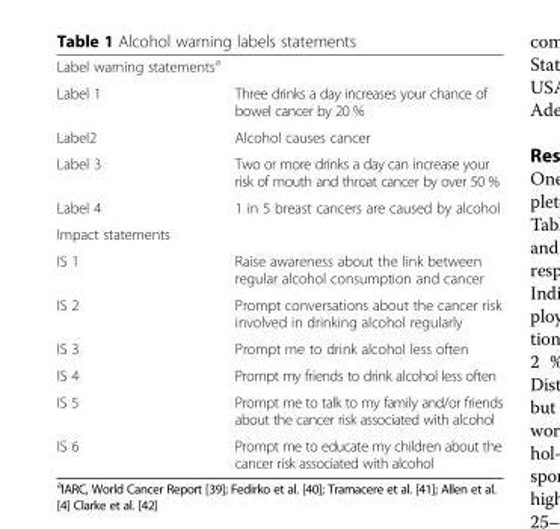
<table><tbody><tr><td colspan="2">Label warning statements<sup>a</sup></td></tr><tr><td>Label 1</td><td>Three drinks a day increases your chance of bowel cancer by 20 %</td></tr><tr><td>Label2</td><td>Alcohol causes cancer</td></tr><tr><td>Label 3</td><td>Two or more drinks a day can increase your risk of mouth and throat cancer by over 50 %</td></tr><tr><td>Label 4</td><td>1 in 5 breast cancers are caused by alcohol</td></tr><tr><td colspan="2">Impact statements</td></tr><tr><td>IS 1</td><td>Raise awareness about the link between regular alcohol consumption and cancer</td></tr><tr><td>IS 2</td><td>Prompt conversations about the cancer risk involved in drinking alcohol regularly</td></tr><tr><td>IS 3</td><td>Prompt me to drink alcohol less often</td></tr><tr><td>IS 4</td><td>Prompt my friends to drink alcohol less often</td></tr><tr><td>IS 5</td><td>Prompt me to talk to my family and/or friends about the cancer risk associated with alcohol</td></tr><tr><td>IS 6</td><td>Prompt me to educate my children about the cancer risk associated with alcohol</td></tr></tbody></table>